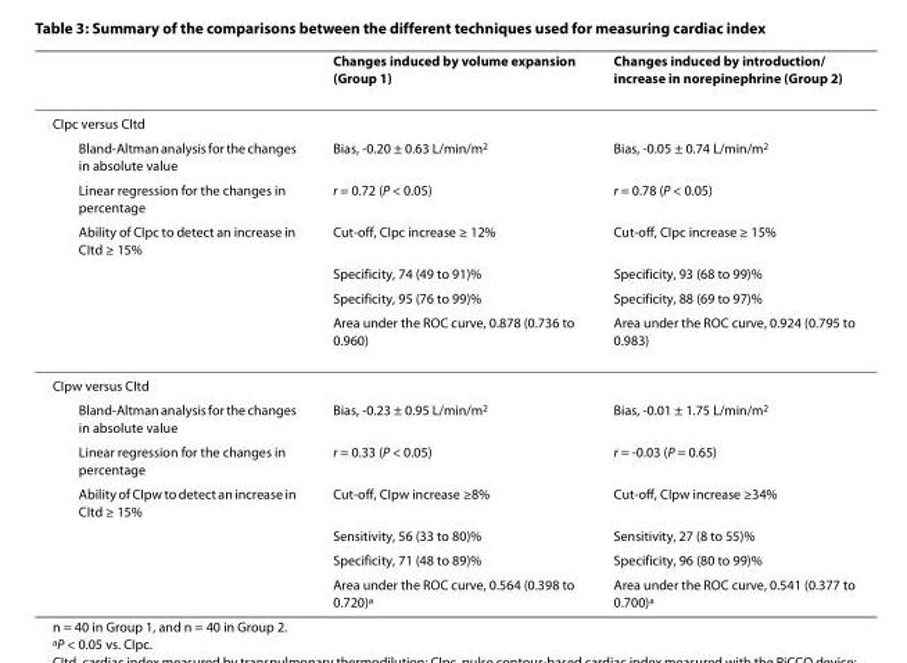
<table><thead><tr><td></td><td>Changes induced by volume expansion (Group 1)</td><td>Changes induced by introduction/ increase in norepinephrine (Group 2)</td></tr></thead><tbody><tr><td colspan="3">CIpc versus CItd</td></tr><tr><td>Bland-Altman analysis for the changes in absolute value</td><td>Bias, -0.20 ± 0.63 L/min/m<sup>2</sup></td><td>Bias, -0.05 ± 0.74 L/min/m<sup>2</sup></td></tr><tr><td>Linear regression for the changes in percentage</td><td>r = 0.72 (P &lt; 0.05)</td><td>r = 0.78 (P &lt; 0.05)</td></tr><tr><td rowspan="4">Ability of CIpc to detect an increase in CItd ≥ 15%</td><td>Cut-off, CIpc increase ≥ 12%</td><td>Cut-off, CIpc increase ≥ 15%</td></tr><tr><td>Specificity, 74 (49 to 91)%</td><td>Specificity, 93 (68 to 99)%</td></tr><tr><td>Specificity, 95 (76 to 99)%</td><td>Specificity, 88 (69 to 97)%</td></tr><tr><td>Area under the ROC curve, 0.878 (0.736 to 0.960)</td><td>Area under the ROC curve, 0.924 (0.795 to 0.983)</td></tr><tr><td colspan="3">CIpw versus CItd</td></tr><tr><td>Bland-Altman analysis for the changes in absolute value</td><td>Bias, -0.23 ± 0.95 L/min/m<sup>2</sup></td><td>Bias, -0.01 ± 1.75 L/min/m<sup>2</sup></td></tr><tr><td>Linear regression for the changes in percentage</td><td>r = 0.33 (P &lt; 0.05)</td><td>r = -0.03 (P = 0.65)</td></tr><tr><td rowspan="4">Ability of CIpw to detect an increase in CItd ≥ 15%</td><td>Cut-off, CIpw increase ≥8%</td><td>Cut-off, CIpw increase ≥34%</td></tr><tr><td>Sensitivity, 56 (33 to 80)%</td><td>Sensitivity, 27 (8 to 55)%</td></tr><tr><td>Specificity, 71 (48 to 89)%</td><td>Specificity, 96 (80 to 99)%</td></tr><tr><td>Area under the ROC curve, 0.564 (0.398 to 0.720)<sup>a</sup></td><td>Area under the ROC curve, 0.541 (0.377 to 0.700)<sup>a</sup></td></tr></tbody></table>